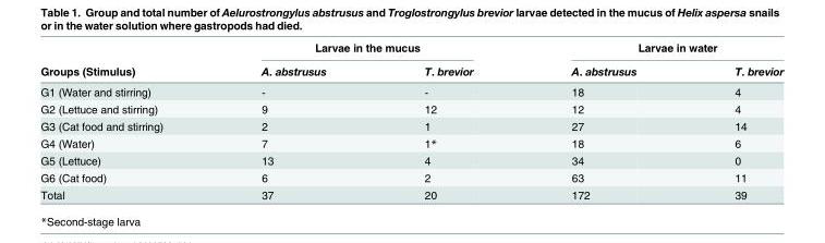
<table><thead><tr><td rowspan="2">Groups (Stimulus)</td><td colspan="2">Larvae in the mucus</td><td colspan="2">Larvae in water</td></tr><tr><td>A. abstrusus</td><td>T. brevior</td><td>A. abstrusus</td><td>T. brevior</td></tr></thead><tbody><tr><td>G1 (Water and stirring)</td><td>-</td><td>-</td><td>18</td><td>4</td></tr><tr><td>G2 (Lettuce and stirring)</td><td>9</td><td>12</td><td>12</td><td>4</td></tr><tr><td>G3 (Cat food and stirring)</td><td>2</td><td>1</td><td>27</td><td>14</td></tr><tr><td>G4 (Water)</td><td>7</td><td>1*</td><td>18</td><td>6</td></tr><tr><td>G5 (Lettuce)</td><td>13</td><td>4</td><td>34</td><td>0</td></tr><tr><td>G6 (Cat food)</td><td>6</td><td>2</td><td>63</td><td>11</td></tr><tr><td>Total</td><td>37</td><td>20</td><td>172</td><td>39</td></tr></tbody></table>